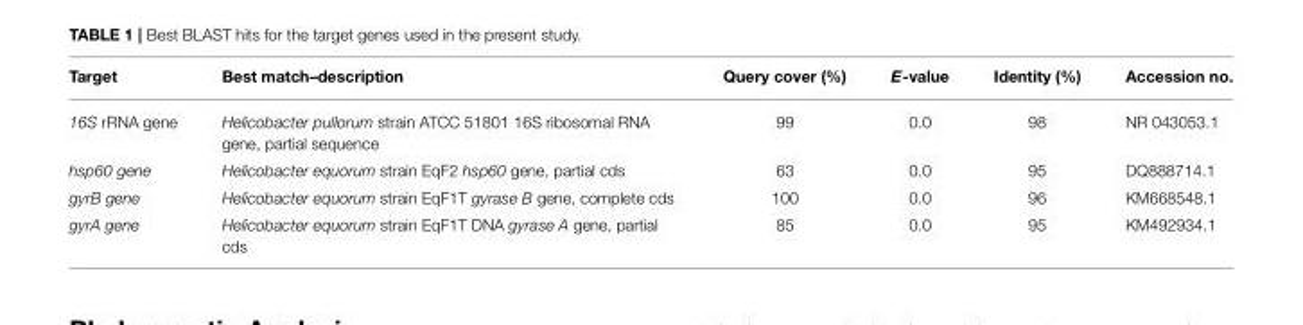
<table><thead><tr><td>Target</td><td>Best match–description</td><td>Query cover (%)</td><td>E-value</td><td>Identity (%)</td><td>Accession no.</td></tr></thead><tbody><tr><td>16S rRNA gene</td><td>Helicobacter pullorum strain ATCC 51801 16S ribosomal RNA gene, partial sequence</td><td>99</td><td>0.0</td><td>98</td><td>NR 043053.1</td></tr><tr><td>hsp60 gene</td><td>Helicobacter equorum strain EqF2 hsp60 gene, partial cds</td><td>63</td><td>0.0</td><td>95</td><td>DQ888714.1</td></tr><tr><td>gyrB gene</td><td>Helicobacter equorum strain EqF1T gyrase B gene, complete cds</td><td>100</td><td>0.0</td><td>96</td><td>KM668548.1</td></tr><tr><td>gyrA gene</td><td>Helicobacter equorum strain EqF1T DNA gyrase A gene, partial cds</td><td>85</td><td>0.0</td><td>95</td><td>KM492934.1</td></tr></tbody></table>